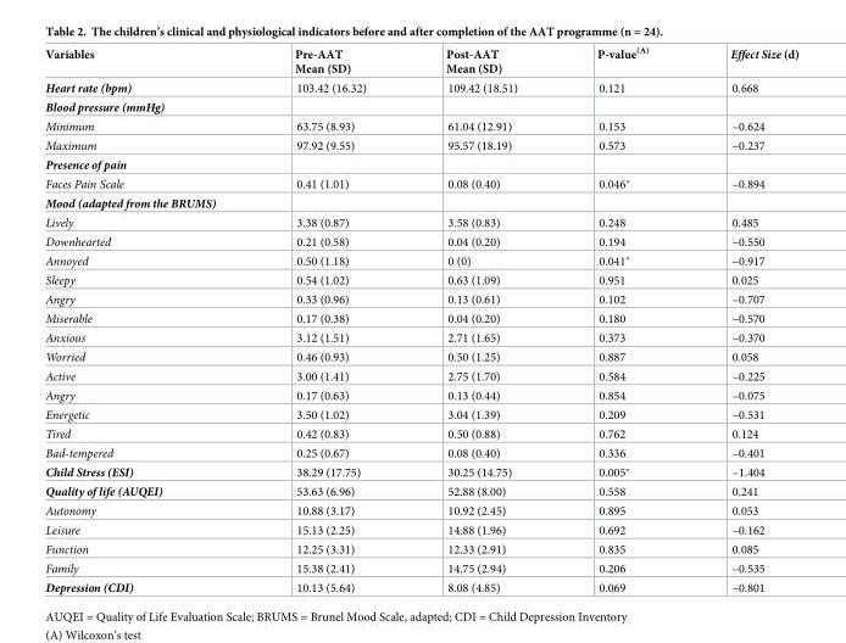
<table><thead><tr><td>Variables</td><td>Pre-AAT Mean (SD)</td><td>Post-AAT Mean (SD)</td><td>P-value<sup>(A)</sup></td><td>Effect Size (d)</td></tr></thead><tbody><tr><td>Heart rate (bpm)</td><td>103.42 (16.32)</td><td>109.42 (18.51)</td><td>0.121</td><td>0.668</td></tr><tr><td colspan="5">Blood pressure (mmHg)</td></tr><tr><td>Minimum</td><td>63.75 (8.93)</td><td>61.04 (12.91)</td><td>0.153</td><td>–0.624</td></tr><tr><td>Maximum</td><td>97.92 (9.55)</td><td>95.57 (18.19)</td><td>0.573</td><td>–0.237</td></tr><tr><td colspan="5">Presence of pain</td></tr><tr><td>Faces Pain Scale</td><td>0.41 (1.01)</td><td>0.08 (0.40)</td><td>0.046*</td><td>–0.894</td></tr><tr><td colspan="5">Mood (adapted from the BRUMS)</td></tr><tr><td>Lively</td><td>3.38 (0.87)</td><td>3.58 (0.83)</td><td>0.248</td><td>0.485</td></tr><tr><td>Downhearted</td><td>0.21 (0.58)</td><td>0.04 (0.20)</td><td>0.194</td><td>–0.550</td></tr><tr><td>Annoyed</td><td>0.50 (1.18)</td><td>0 (0)</td><td>0.041*</td><td>–0.917</td></tr><tr><td>Sleepy</td><td>0.54 (1.02)</td><td>0.63 (1.09)</td><td>0.951</td><td>0.025</td></tr><tr><td>Angry</td><td>0.33 (0.96)</td><td>0.13 (0.61)</td><td>0.102</td><td>–0.707</td></tr><tr><td>Miserable</td><td>0.17 (0.38)</td><td>0.04 (0.20)</td><td>0.180</td><td>–0.570</td></tr><tr><td>Anxious</td><td>3.12 (1.51)</td><td>2.71 (1.65)</td><td>0.373</td><td>–0.370</td></tr><tr><td>Worried</td><td>0.46 (0.93)</td><td>0.50 (1.25)</td><td>0.887</td><td>0.058</td></tr><tr><td>Active</td><td>3.00 (1.41)</td><td>2.75 (1.70)</td><td>0.584</td><td>–0.225</td></tr><tr><td>Angry</td><td>0.17 (0.63)</td><td>0.13 (0.44)</td><td>0.854</td><td>–0.075</td></tr><tr><td>Energetic</td><td>3.50 (1.02)</td><td>3.04 (1.39)</td><td>0.209</td><td>–0.531</td></tr><tr><td>Tired</td><td>0.42 (0.83)</td><td>0.50 (0.88)</td><td>0.762</td><td>0.124</td></tr><tr><td>Bad-tempered</td><td>0.25 (0.67)</td><td>0.08 (0.40)</td><td>0.336</td><td>–0.401</td></tr><tr><td>Child Stress (ESI)</td><td>38.29 (17.75)</td><td>30.25 (14.75)</td><td>0.005*</td><td>–1.404</td></tr><tr><td>Quality of life (AUQEI)</td><td>53.63 (6.96)</td><td>52.88 (8.00)</td><td>0.558</td><td>0.241</td></tr><tr><td>Autonomy</td><td>10.88 (3.17)</td><td>10.92 (2.45)</td><td>0.895</td><td>0.053</td></tr><tr><td>Leisure</td><td>15.13 (2.25)</td><td>14.88 (1.96)</td><td>0.692</td><td>–0.162</td></tr><tr><td>Function</td><td>12.25 (3.31)</td><td>12.33 (2.91)</td><td>0.835</td><td>0.085</td></tr><tr><td>Family</td><td>15.38 (2.41)</td><td>14.75 (2.94)</td><td>0.206</td><td>–0.535</td></tr><tr><td>Depression (CDI)</td><td>10.13 (5.64)</td><td>8.08 (4.85)</td><td>0.069</td><td>–0.801</td></tr></tbody></table>